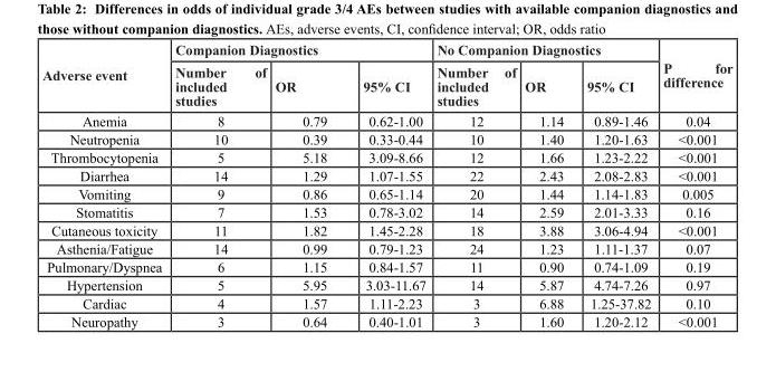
<table><thead><tr><td rowspan="2">Adverse event</td><td colspan="3">Companion Diagnostics</td><td colspan="3">No Companion Diagnostics</td><td rowspan="2">P for difference</td></tr><tr><td>Number of included studies</td><td>OR</td><td>95% CI</td><td>Number of included studies</td><td>OR</td><td>95% CI</td></tr></thead><tbody><tr><td>Anemia</td><td>8</td><td>0.79</td><td>0.62-1.00</td><td>12</td><td>1.14</td><td>0.89-1.46</td><td>0.04</td></tr><tr><td>Neutropenia</td><td>10</td><td>0.39</td><td>0.33-0.44</td><td>10</td><td>1.40</td><td>1.20-1.63</td><td>&lt;0.001</td></tr><tr><td>Thrombocytopenia</td><td>5</td><td>5.18</td><td>3.09-8.66</td><td>12</td><td>1.66</td><td>1.23-2.22</td><td>&lt;0.001</td></tr><tr><td>Diarrhea</td><td>14</td><td>1.29</td><td>1.07-1.55</td><td>22</td><td>2.43</td><td>2.08-2.83</td><td>&lt;0.001</td></tr><tr><td>Vomiting</td><td>9</td><td>0.86</td><td>0.65-1.14</td><td>20</td><td>1.44</td><td>1.14-1.83</td><td>0.005</td></tr><tr><td>Stomatitis</td><td>7</td><td>1.53</td><td>0.78-3.02</td><td>14</td><td>2.59</td><td>2.01-3.33</td><td>0.16</td></tr><tr><td>Cutaneous toxicity</td><td>11</td><td>1.82</td><td>1.45-2.28</td><td>18</td><td>3.88</td><td>3.06-4.94</td><td>&lt;0.001</td></tr><tr><td>Asthenia/Fatigue</td><td>14</td><td>0.99</td><td>0.79-1.23</td><td>24</td><td>1.23</td><td>1.11-1.37</td><td>0.07</td></tr><tr><td>Pulmonary/Dyspnea</td><td>6</td><td>1.15</td><td>0.84-1.57</td><td>11</td><td>0.90</td><td>0.74-1.09</td><td>0.19</td></tr><tr><td>Hypertension</td><td>5</td><td>5.95</td><td>3.03-11.67</td><td>14</td><td>5.87</td><td>4.74-7.26</td><td>0.97</td></tr><tr><td>Cardiac</td><td>4</td><td>1.57</td><td>1.11-2.23</td><td>3</td><td>6.88</td><td>1.25-37.82</td><td>0.10</td></tr><tr><td>Neuropathy</td><td>3</td><td>0.64</td><td>0.40-1.01</td><td>3</td><td>1.60</td><td>1.20-2.12</td><td>&lt;0.001</td></tr></tbody></table>